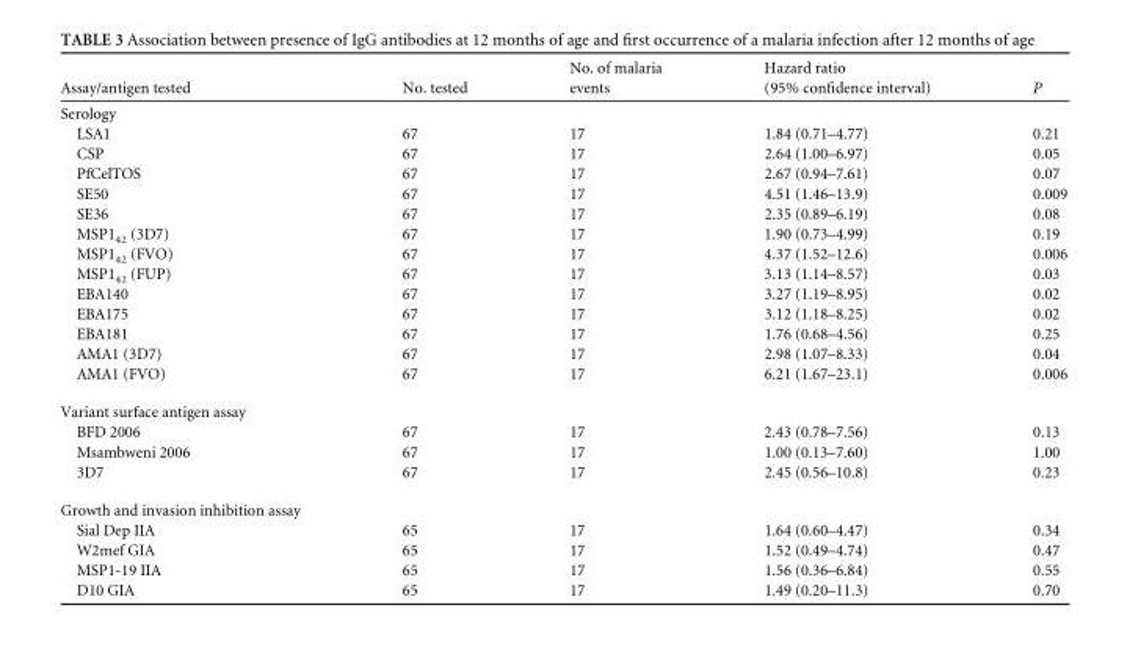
<table><thead><tr><td>Assay/antigen tested</td><td>No. tested</td><td>No. of malaria events</td><td>Hazard ratio (95% confidence interval)</td><td>P</td></tr></thead><tbody><tr><td colspan="5">Serology</td></tr><tr><td>LSA1</td><td>67</td><td>17</td><td>1.84 (0.71–4.77)</td><td>0.21</td></tr><tr><td>CSP</td><td>67</td><td>17</td><td>2.64 (1.00–6.97)</td><td>0.05</td></tr><tr><td>PfCelTOS</td><td>67</td><td>17</td><td>2.67 (0.94–7.61)</td><td>0.07</td></tr><tr><td>SE50</td><td>67</td><td>17</td><td>4.51 (1.46–13.9)</td><td>0.009</td></tr><tr><td>SE36</td><td>67</td><td>17</td><td>2.35 (0.89–6.19)</td><td>0.08</td></tr><tr><td>MSP1<sub>42</sub> (3D7)</td><td>67</td><td>17</td><td>1.90 (0.73–4.99)</td><td>0.19</td></tr><tr><td>MSP1<sub>42</sub> (FVO)</td><td>67</td><td>17</td><td>4.37 (1.52–12.6)</td><td>0.006</td></tr><tr><td>MSP1<sub>42</sub> (FUP)</td><td>67</td><td>17</td><td>3.13 (1.14–8.57)</td><td>0.03</td></tr><tr><td>EBA140</td><td>67</td><td>17</td><td>3.27 (1.19–8.95)</td><td>0.02</td></tr><tr><td>EBA175</td><td>67</td><td>17</td><td>3.12 (1.18–8.25)</td><td>0.02</td></tr><tr><td>EBA181</td><td>67</td><td>17</td><td>1.76 (0.68–4.56)</td><td>0.25</td></tr><tr><td>AMA1 (3D7)</td><td>67</td><td>17</td><td>2.98 (1.07–8.33)</td><td>0.04</td></tr><tr><td>AMA1 (FVO)</td><td>67</td><td>17</td><td>6.21 (1.67–23.1)</td><td>0.006</td></tr><tr><td colspan="5">Variant surface antigen assay</td></tr><tr><td>BFD 2006</td><td>67</td><td>17</td><td>2.43 (0.78–7.56)</td><td>0.13</td></tr><tr><td>Msambweni 2006</td><td>67</td><td>17</td><td>1.00 (0.13–7.60)</td><td>1.00</td></tr><tr><td>3D7</td><td>67</td><td>17</td><td>2.45 (0.56–10.8)</td><td>0.23</td></tr><tr><td colspan="5">Growth and invasion inhibition assay</td></tr><tr><td>Sial Dep IIA</td><td>65</td><td>17</td><td>1.64 (0.60–4.47)</td><td>0.34</td></tr><tr><td>W2mef GIA</td><td>65</td><td>17</td><td>1.52 (0.49–4.74)</td><td>0.47</td></tr><tr><td>MSP1-19 IIA</td><td>65</td><td>17</td><td>1.56 (0.36–6.84)</td><td>0.55</td></tr><tr><td>D10 GIA</td><td>65</td><td>17</td><td>1.49 (0.20–11.3)</td><td>0.70</td></tr></tbody></table>